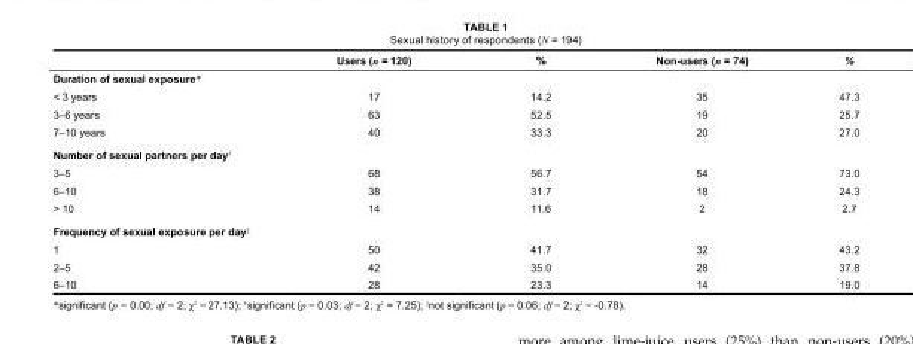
<table><thead><tr><td></td><td>Users (n = 120)</td><td>%</td><td>Non-users (n = 74)</td><td>%</td></tr></thead><tbody><tr><td colspan="5">Duration of sexual exposure*</td></tr><tr><td>&lt; 3 years</td><td>17</td><td>14.2</td><td>35</td><td>47.3</td></tr><tr><td>3–6 years</td><td>63</td><td>52.5</td><td>19</td><td>25.7</td></tr><tr><td>7–10 years</td><td>40</td><td>33.3</td><td>20</td><td>27.0</td></tr><tr><td colspan="5">Number of sexual partners per day†</td></tr><tr><td>3–5</td><td>68</td><td>56.7</td><td>54</td><td>73.0</td></tr><tr><td>6–10</td><td>38</td><td>31.7</td><td>18</td><td>24.3</td></tr><tr><td>&gt; 10</td><td>14</td><td>11.6</td><td>2</td><td>2.7</td></tr><tr><td colspan="5">Frequency of sexual exposure per day‡</td></tr><tr><td>1</td><td>50</td><td>41.7</td><td>32</td><td>43.2</td></tr><tr><td>2–5</td><td>42</td><td>35.0</td><td>28</td><td>37.8</td></tr><tr><td>6–10</td><td>28</td><td>23.3</td><td>14</td><td>19.0</td></tr></tbody></table>